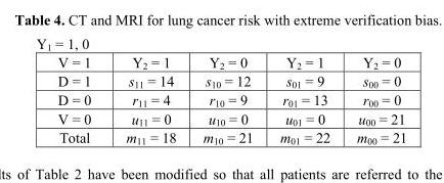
<table><tbody><tr><td colspan="5">Y<sub>1</sub> = 1, 0</td></tr><tr><td>V = 1</td><td>Y<sub>2</sub> = 1</td><td>Y<sub>2</sub> = 0</td><td>Y<sub>2</sub> = 1</td><td>Y<sub>2</sub> = 0</td></tr><tr><td>D = 1</td><td>s<sub>11</sub> = 14</td><td>s<sub>10</sub> = 12</td><td>s<sub>01</sub> = 9</td><td>s<sub>00</sub> = 0</td></tr><tr><td>D = 0</td><td>r<sub>11</sub> = 4</td><td>r<sub>10</sub> = 9</td><td>r<sub>01</sub> = 13</td><td>r<sub>00</sub> = 0</td></tr><tr><td>V = 0</td><td>u<sub>11</sub> = 0</td><td>u<sub>10</sub> = 0</td><td>u<sub>01</sub> = 0</td><td>u<sub>00</sub> = 21</td></tr><tr><td>Total</td><td>m<sub>11</sub> = 18</td><td>m<sub>10</sub> = 21</td><td>m<sub>01</sub> = 22</td><td>m<sub>00</sub> = 21</td></tr></tbody></table>